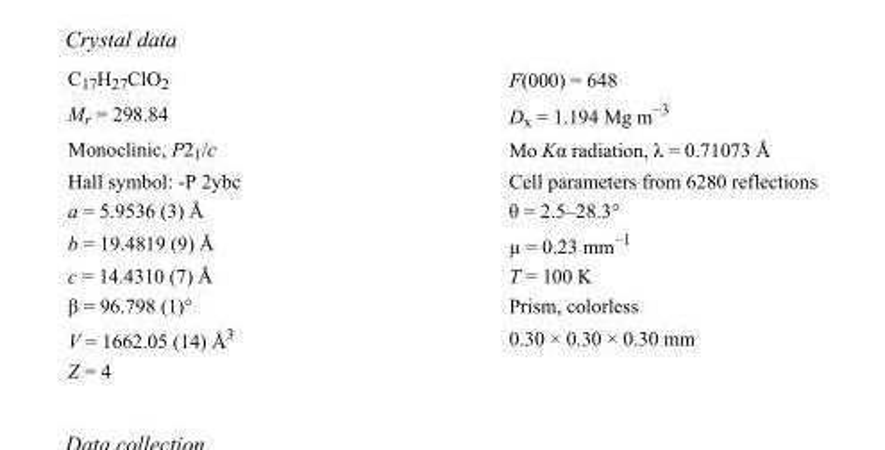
<table><tbody><tr><td>C<sub>17</sub>H<sub>27</sub>ClO<sub>2</sub></td><td>F(000) = 648</td></tr><tr><td>M<sub>r</sub> = 298.84</td><td>D<sub>x</sub> = 1.194 Mg m<sup>−3</sup></td></tr><tr><td>Monoclinic, P2<sub>1</sub>/c</td><td>Mo Kα radiation, λ = 0.71073 Å</td></tr><tr><td>Hall symbol: -P 2ybc</td><td>Cell parameters from 6280 reflections</td></tr><tr><td>a = 5.9536 (3) Å</td><td>θ = 2.5–28.3°</td></tr><tr><td>b = 19.4819 (9) Å</td><td>µ = 0.23 mm<sup>−1</sup></td></tr><tr><td>c = 14.4310 (7) Å</td><td>T = 100 K</td></tr><tr><td>β = 96.798 (1)°</td><td>Prism, colorless</td></tr><tr><td>V = 1662.05 (14) Å<sup>3</sup></td><td>0.30 × 0.30 × 0.30 mm</td></tr><tr><td>Z = 4</td><td></td></tr></tbody></table>